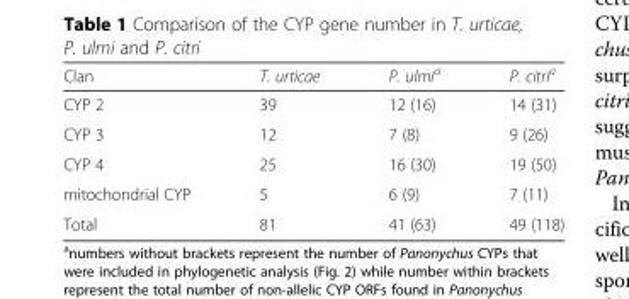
<table><thead><tr><td>Clan</td><td>T. urticae</td><td>P. ulmi<sup>a</sup></td><td>P. citri<sup>a</sup></td></tr></thead><tbody><tr><td>CYP 2</td><td>39</td><td>12 (16)</td><td>14 (31)</td></tr><tr><td>CYP 3</td><td>12</td><td>7 (8)</td><td>9 (26)</td></tr><tr><td>CYP 4</td><td>25</td><td>16 (30)</td><td>19 (50)</td></tr><tr><td>mitochondrial CYP</td><td>5</td><td>6 (9)</td><td>7 (11)</td></tr><tr><td>Total</td><td>81</td><td>41 (63)</td><td>49 (118)</td></tr></tbody></table>